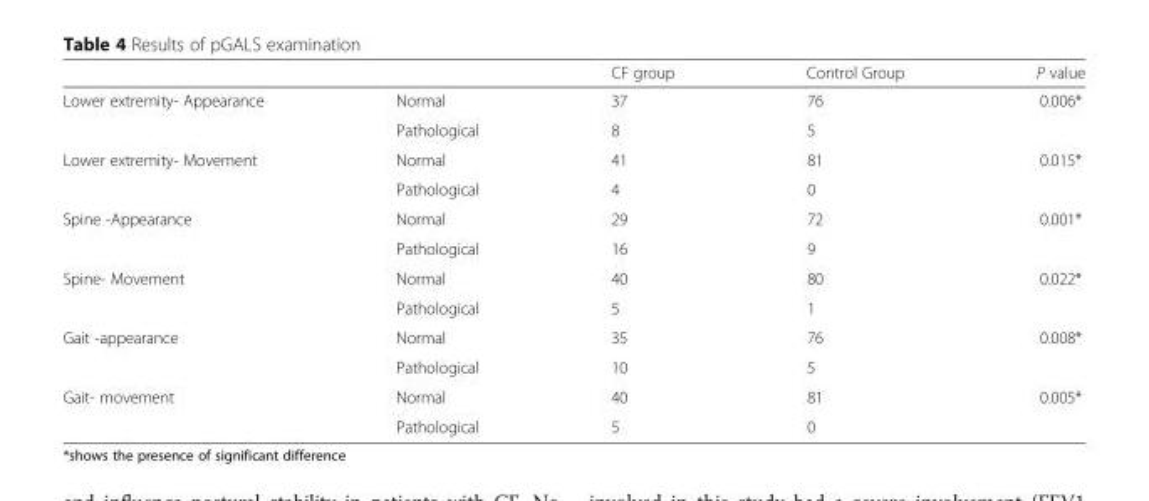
<table><thead><tr><td></td><td></td><td>CF group</td><td>Control Group</td><td>P value</td></tr></thead><tbody><tr><td rowspan="2">Lower extremity- Appearance</td><td>Normal</td><td>37</td><td>76</td><td rowspan="2">0.006*</td></tr><tr><td>Pathological</td><td>8</td><td>5</td></tr><tr><td rowspan="2">Lower extremity- Movement</td><td>Normal</td><td>41</td><td>81</td><td rowspan="2">0.015*</td></tr><tr><td>Pathological</td><td>4</td><td>0</td></tr><tr><td rowspan="2">Spine -Appearance</td><td>Normal</td><td>29</td><td>72</td><td rowspan="2">0.001*</td></tr><tr><td>Pathological</td><td>16</td><td>9</td></tr><tr><td rowspan="2">Spine- Movement</td><td>Normal</td><td>40</td><td>80</td><td rowspan="2">0.022*</td></tr><tr><td>Pathological</td><td>5</td><td>1</td></tr><tr><td rowspan="2">Gait -appearance</td><td>Normal</td><td>35</td><td>76</td><td rowspan="2">0.008*</td></tr><tr><td>Pathological</td><td>10</td><td>5</td></tr><tr><td rowspan="2">Gait- movement</td><td>Normal</td><td>40</td><td>81</td><td rowspan="2">0.005*</td></tr><tr><td>Pathological</td><td>5</td><td>0</td></tr></tbody></table>